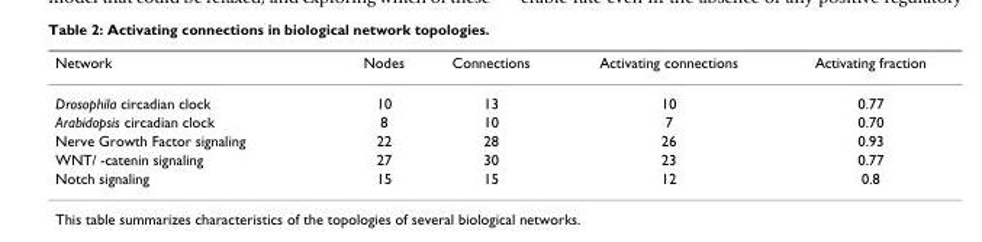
<table><thead><tr><td>Network</td><td>Nodes</td><td>Connections</td><td>Activating connections</td><td>Activating fraction</td></tr></thead><tbody><tr><td>Drosophila circadian clock</td><td>10</td><td>13</td><td>10</td><td>0.77</td></tr><tr><td>Arabidopsis circadian clock</td><td>8</td><td>10</td><td>7</td><td>0.70</td></tr><tr><td>Nerve Growth Factor signaling</td><td>22</td><td>28</td><td>26</td><td>0.93</td></tr><tr><td>WNT/ -catenin signaling</td><td>27</td><td>30</td><td>23</td><td>0.77</td></tr><tr><td>Notch signaling</td><td>15</td><td>15</td><td>12</td><td>0.8</td></tr></tbody></table>